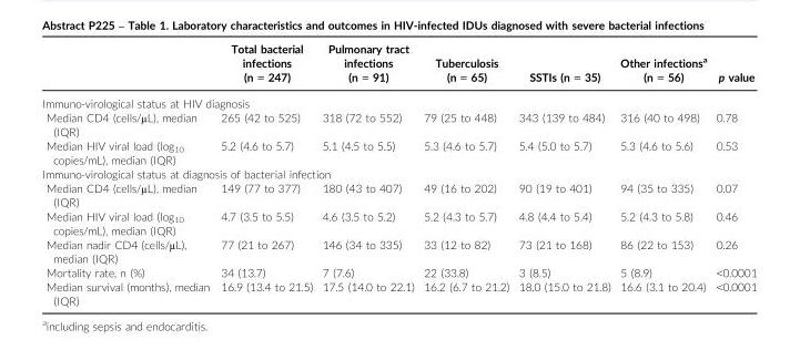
<table><thead><tr><td></td><td>Total bacterial infections (n = 247)</td><td>Pulmonary tract infections (n = 91)</td><td>Tuberculosis (n = 65)</td><td>SSTIs (n = 35)</td><td>Other infections<sup>a</sup> (n = 56)</td><td>p value</td></tr></thead><tbody><tr><td colspan="7">Immuno-virological status at HIV diagnosis</td></tr><tr><td>Median CD4 (cells/μL), median (IQR)</td><td>265 (42 to 525)</td><td>318 (72 to 552)</td><td>79 (25 to 448)</td><td>343 (139 to 484)</td><td>316 (40 to 498)</td><td>0.78</td></tr><tr><td>Median HIV viral load (log10 copies/mL), median (IQR)</td><td>5.2 (4.6 to 5.7)</td><td>5.1 (4.5 to 5.5)</td><td>5.3 (4.6 to 5.7)</td><td>5.4 (5.0 to 5.7)</td><td>5.3 (4.6 to 5.6)</td><td>0.53</td></tr><tr><td colspan="7">Immuno-virological status at diagnosis of bacterial infection</td></tr><tr><td>Median CD4 (cells/μL), median (IQR)</td><td>149 (77 to 377)</td><td>180 (43 to 407)</td><td>49 (16 to 202)</td><td>90 (19 to 401)</td><td>94 (35 to 335)</td><td>0.07</td></tr><tr><td>Median HIV viral load (log10 copies/mL), median (IQR)</td><td>4.7 (3.5 to 5.5)</td><td>4.6 (3.5 to 5.2)</td><td>5.2 (4.3 to 5.7)</td><td>4.8 (4.4 to 5.4)</td><td>5.2 (4.3 to 5.8)</td><td>0.46</td></tr><tr><td>Median nadir CD4 (cells/μL), median (IQR)</td><td>77 (21 to 267)</td><td>146 (34 to 335)</td><td>33 (12 to 82)</td><td>73 (21 to 168)</td><td>86 (22 to 153)</td><td>0.26</td></tr><tr><td>Mortality rate, n (%)</td><td>34 (13.7)</td><td>7 (7.6)</td><td>22 (33.8)</td><td>3 (8.5)</td><td>5 (8.9)</td><td>&lt;0.0001</td></tr><tr><td>Median survival (months), median (IQR)</td><td>16.9 (13.4 to 21.5)</td><td>17.5 (14.0 to 22.1)</td><td>16.2 (6.7 to 21.2)</td><td>18.0 (15.0 to 21.8)</td><td>16.6 (3.1 to 20.4)</td><td>&lt;0.0001</td></tr></tbody></table>